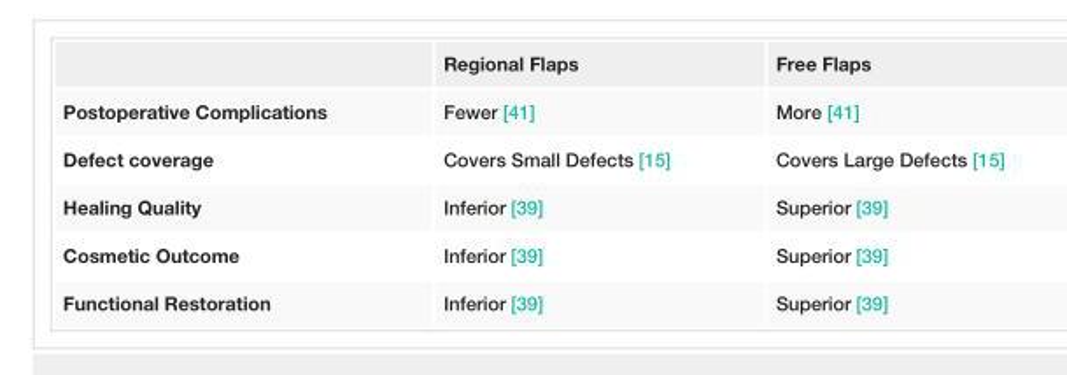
<table><thead><tr><td></td><td>Regional Flaps</td><td>Free Flaps</td></tr></thead><tbody><tr><td>Postoperative Complications</td><td>Fewer [41]</td><td>More [41]</td></tr><tr><td>Defect coverage</td><td>Covers Small Defects [15]</td><td>Covers Large Defects [15]</td></tr><tr><td>Healing Quality</td><td>Inferior [39]</td><td>Superior [39]</td></tr><tr><td>Cosmetic Outcome</td><td>Inferior [39]</td><td>Superior [39]</td></tr><tr><td>Functional Restoration</td><td>Inferior [39]</td><td>Superior [39]</td></tr></tbody></table>